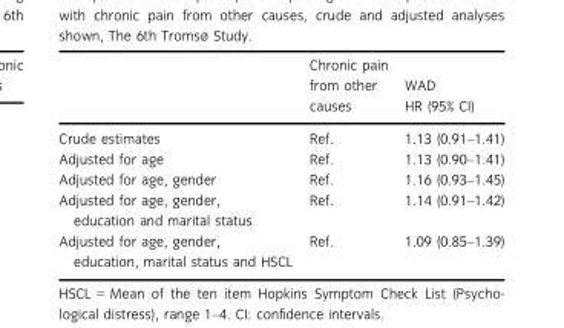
<table><thead><tr><td></td><td>Chronic pain from other causes</td><td>WAD HR (95% CI)</td></tr></thead><tbody><tr><td>Crude estimates</td><td>Ref.</td><td>1.13 (0.91–1.41)</td></tr><tr><td>Adjusted for age</td><td>Ref.</td><td>1.13 (0.90–1.41)</td></tr><tr><td>Adjusted for age, gender</td><td>Ref.</td><td>1.16 (0.93–1.45)</td></tr><tr><td>Adjusted for age, gender, education and marital status</td><td>Ref.</td><td>1.14 (0.91–1.42)</td></tr><tr><td>Adjusted for age, gender, education, marital status and HSCL</td><td>Ref.</td><td>1.09 (0.85–1.39)</td></tr></tbody></table>